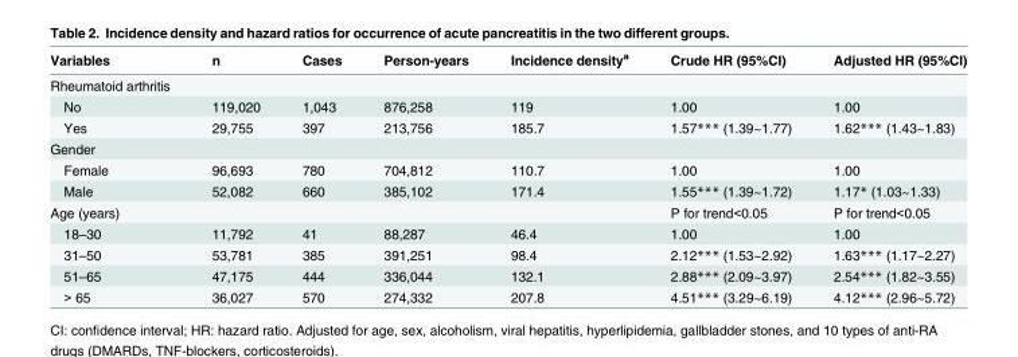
<table><thead><tr><td>Variables</td><td>n</td><td>Cases</td><td>Person-years</td><td>Incidence density<sup>a</sup></td><td>Crude HR (95%CI)</td><td>Adjusted HR (95%CI)</td></tr></thead><tbody><tr><td colspan="7">Rheumatoid arthritis</td></tr><tr><td>No</td><td>119,020</td><td>1,043</td><td>876,258</td><td>119</td><td>1.00</td><td>1.00</td></tr><tr><td>Yes</td><td>29,755</td><td>397</td><td>213,756</td><td>185.7</td><td>1.57*** (1.39~1.77)</td><td>1.62*** (1.43~1.83)</td></tr><tr><td colspan="7">Gender</td></tr><tr><td>Female</td><td>96,693</td><td>780</td><td>704,812</td><td>110.7</td><td>1.00</td><td>1.00</td></tr><tr><td>Male</td><td>52,082</td><td>660</td><td>385,102</td><td>171.4</td><td>1.55*** (1.39~1.72)</td><td>1.17* (1.03~1.33)</td></tr><tr><td>Age (years)</td><td></td><td></td><td></td><td></td><td>P for trend&lt;0.05</td><td>P for trend&lt;0.05</td></tr><tr><td>18–30</td><td>11,792</td><td>41</td><td>88,287</td><td>46.4</td><td>1.00</td><td>1.00</td></tr><tr><td>31–50</td><td>53,781</td><td>385</td><td>391,251</td><td>98.4</td><td>2.12*** (1.53~2.92)</td><td>1.63*** (1.17~2.27)</td></tr><tr><td>51–65</td><td>47,175</td><td>444</td><td>336,044</td><td>132.1</td><td>2.88*** (2.09~3.97)</td><td>2.54*** (1.82~3.55)</td></tr><tr><td>&gt; 65</td><td>36,027</td><td>570</td><td>274,332</td><td>207.8</td><td>4.51*** (3.29~6.19)</td><td>4.12*** (2.96~5.72)</td></tr></tbody></table>